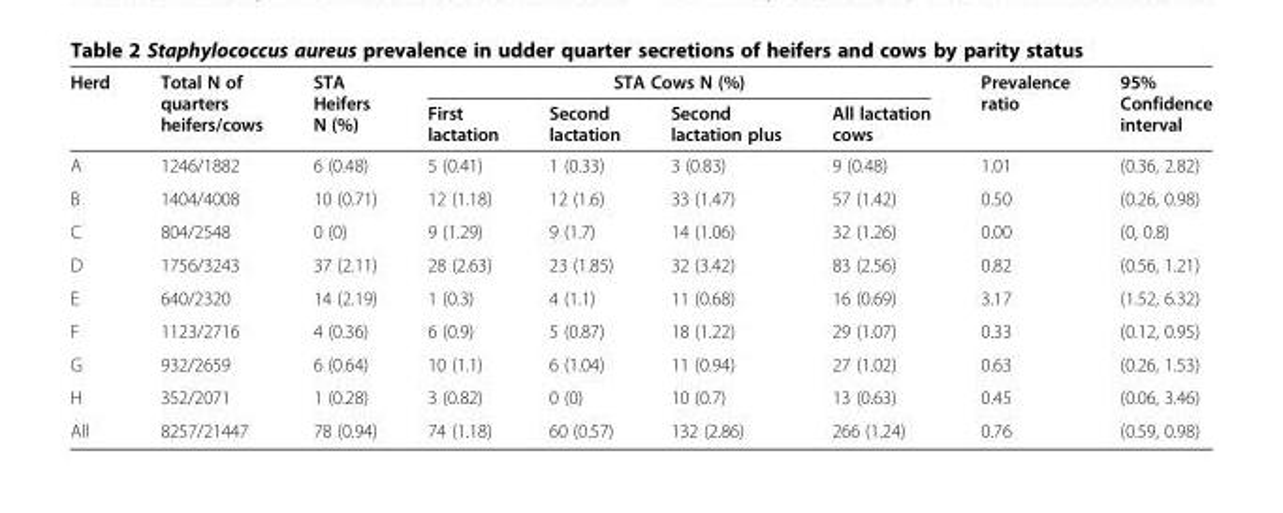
<table><thead><tr><td rowspan="2">Herd</td><td rowspan="2">Total N of quarters heifers/cows</td><td rowspan="2">STA Heifers N (%)</td><td colspan="4">STA Cows N (%)</td><td rowspan="2">Prevalence ratio</td><td rowspan="2">95% Confidence interval</td></tr><tr><td>First lactation</td><td>Second lactation</td><td>Second lactation plus</td><td>All lactation cows</td></tr></thead><tbody><tr><td>A</td><td>1246/1882</td><td>6 (0.48)</td><td>5 (0.41)</td><td>1 (0.33)</td><td>3 (0.83)</td><td>9 (0.48)</td><td>1.01</td><td>(0.36, 2.82)</td></tr><tr><td>B</td><td>1404/4008</td><td>10 (0.71)</td><td>12 (1.18)</td><td>12 (1.6)</td><td>33 (1.47)</td><td>57 (1.42)</td><td>0.50</td><td>(0.26, 0.98)</td></tr><tr><td>C</td><td>804/2548</td><td>0 (0)</td><td>9 (1.29)</td><td>9 (1.7)</td><td>14 (1.06)</td><td>32 (1.26)</td><td>0.00</td><td>(0, 0.8)</td></tr><tr><td>D</td><td>1756/3243</td><td>37 (2.11)</td><td>28 (2.63)</td><td>23 (1.85)</td><td>32 (3.42)</td><td>83 (2.56)</td><td>0.82</td><td>(0.56, 1.21)</td></tr><tr><td>E</td><td>640/2320</td><td>14 (2.19)</td><td>1 (0.3)</td><td>4 (1.1)</td><td>11 (0.68)</td><td>16 (0.69)</td><td>3.17</td><td>(1.52, 6.32)</td></tr><tr><td>F</td><td>1123/2716</td><td>4 (0.36)</td><td>6 (0.9)</td><td>5 (0.87)</td><td>18 (1.22)</td><td>29 (1.07)</td><td>0.33</td><td>(0.12, 0.95)</td></tr><tr><td>G</td><td>932/2659</td><td>6 (0.64)</td><td>10 (1.1)</td><td>6 (1.04)</td><td>11 (0.94)</td><td>27 (1.02)</td><td>0.63</td><td>(0.26, 1.53)</td></tr><tr><td>H</td><td>352/2071</td><td>1 (0.28)</td><td>3 (0.82)</td><td>0 (0)</td><td>10 (0.7)</td><td>13 (0.63)</td><td>0.45</td><td>(0.06, 3.46)</td></tr><tr><td>All</td><td>8257/21447</td><td>78 (0.94)</td><td>74 (1.18)</td><td>60 (0.57)</td><td>132 (2.86)</td><td>266 (1.24)</td><td>0.76</td><td>(0.59, 0.98)</td></tr></tbody></table>